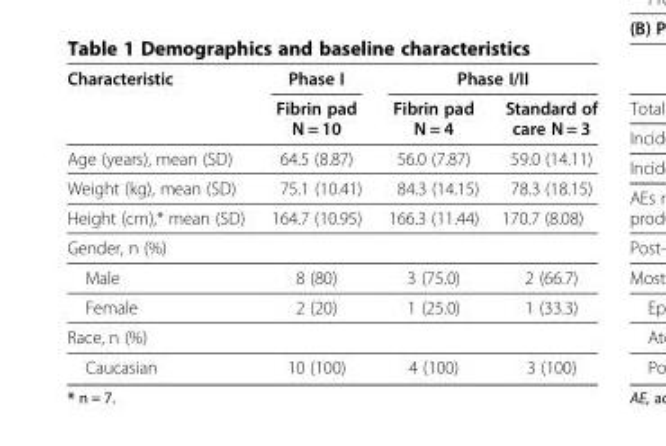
<table><thead><tr><td rowspan="2">Characteristic</td><td rowspan="2">Phase I Fibrin pad N = 10</td><td colspan="2">Phase I/II</td></tr><tr><td>Fibrin pad N = 4</td><td>Standard of care N = 3</td></tr></thead><tbody><tr><td>Age (years), mean (SD)</td><td>64.5 (8.87)</td><td>56.0 (7.87)</td><td>59.0 (14.11)</td></tr><tr><td>Weight (kg), mean (SD)</td><td>75.1 (10.41)</td><td>84.3 (14.15)</td><td>78.3 (18.15)</td></tr><tr><td>Height (cm),* mean (SD)</td><td>164.7 (10.95)</td><td>166.3 (11.44)</td><td>170.7 (8.08)</td></tr><tr><td colspan="4">Gender, n (%)</td></tr><tr><td>Male</td><td>8 (80)</td><td>3 (75.0)</td><td>2 (66.7)</td></tr><tr><td>Female</td><td>2 (20)</td><td>1 (25.0)</td><td>1 (33.3)</td></tr><tr><td colspan="4">Race, n (%)</td></tr><tr><td>Caucasian</td><td>10 (100)</td><td>4 (100)</td><td>3 (100)</td></tr></tbody></table>